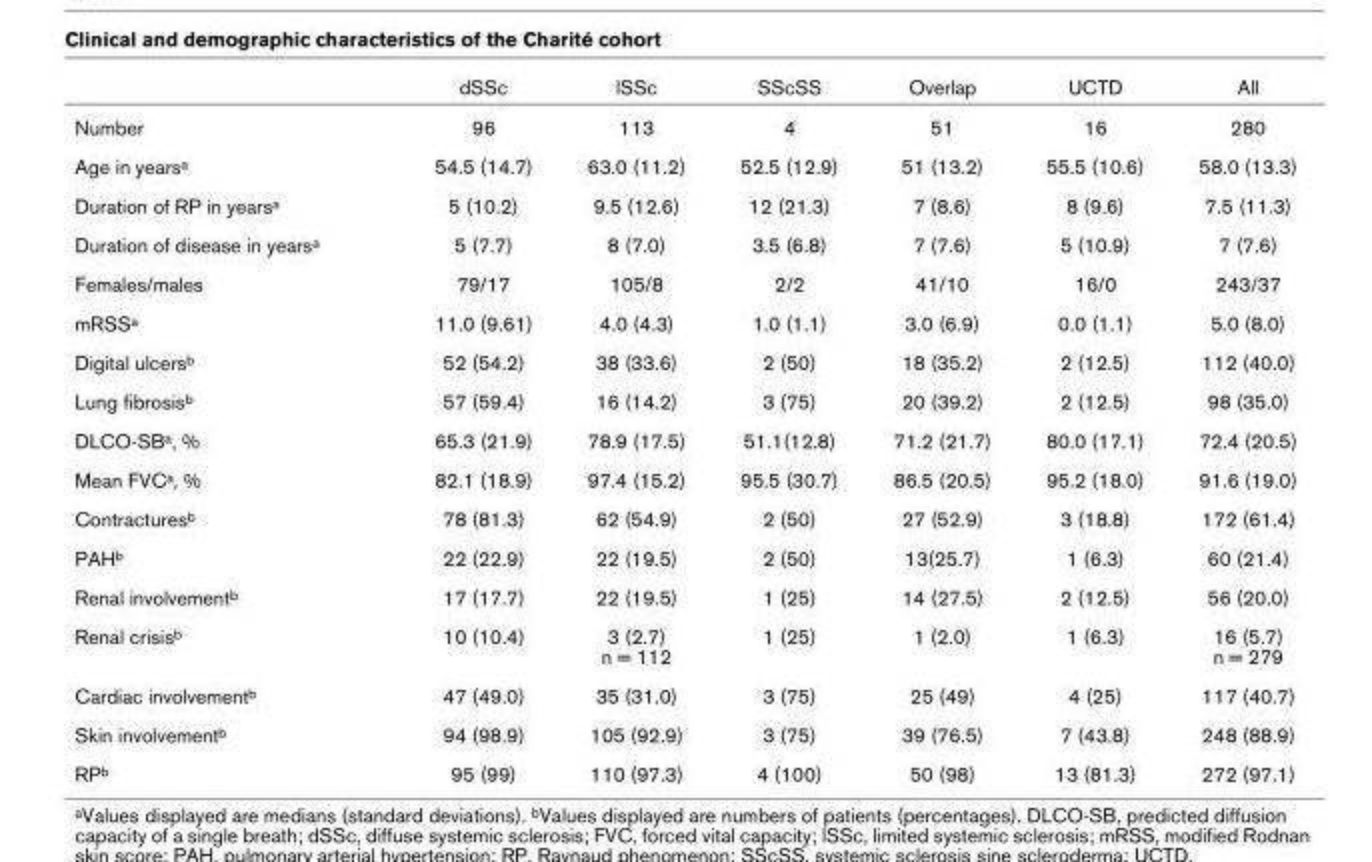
<table><thead><tr><td></td><td>dSSc</td><td>lSSc</td><td>SScSS</td><td>Overlap</td><td>UCTD</td><td>All</td></tr></thead><tbody><tr><td>Number</td><td>96</td><td>113</td><td>4</td><td>51</td><td>16</td><td>280</td></tr><tr><td>Age in years<sup>a</sup></td><td>54.5 (14.7)</td><td>63.0 (11.2)</td><td>52.5 (12.9)</td><td>51 (13.2)</td><td>55.5 (10.6)</td><td>58.0 (13.3)</td></tr><tr><td>Duration of RP in years<sup>a</sup></td><td>5 (10.2)</td><td>9.5 (12.6)</td><td>12 (21.3)</td><td>7 (8.6)</td><td>8 (9.6)</td><td>7.5 (11.3)</td></tr><tr><td>Duration of disease in years<sup>a</sup></td><td>5 (7.7)</td><td>8 (7.0)</td><td>3.5 (6.8)</td><td>7 (7.6)</td><td>5 (10.9)</td><td>7 (7.6)</td></tr><tr><td>Females/males</td><td>79/17</td><td>105/8</td><td>2/2</td><td>41/10</td><td>16/0</td><td>243/37</td></tr><tr><td>mRSS<sup>a</sup></td><td>11.0 (9.61)</td><td>4.0 (4.3)</td><td>1.0 (1.1)</td><td>3.0 (6.9)</td><td>0.0 (1.1)</td><td>5.0 (8.0)</td></tr><tr><td>Digital ulcers<sup>b</sup></td><td>52 (54.2)</td><td>38 (33.6)</td><td>2 (50)</td><td>18 (35.2)</td><td>2 (12.5)</td><td>112 (40.0)</td></tr><tr><td>Lung fibrosis<sup>b</sup></td><td>57 (59.4)</td><td>16 (14.2)</td><td>3 (75)</td><td>20 (39.2)</td><td>2 (12.5)</td><td>98 (35.0)</td></tr><tr><td>DLCO-SB<sup>a</sup>, %</td><td>65.3 (21.9)</td><td>78.9 (17.5)</td><td>51.1(12.8)</td><td>71.2 (21.7)</td><td>80.0 (17.1)</td><td>72.4 (20.5)</td></tr><tr><td>Mean FVC<sup>a</sup>, %</td><td>82.1 (18.9)</td><td>97.4 (15.2)</td><td>95.5 (30.7)</td><td>86.5 (20.5)</td><td>95.2 (18.0)</td><td>91.6 (19.0)</td></tr><tr><td>Contractures<sup>b</sup></td><td>78 (81.3)</td><td>62 (54.9)</td><td>2 (50)</td><td>27 (52.9)</td><td>3 (18.8)</td><td>172 (61.4)</td></tr><tr><td>PAH<sup>b</sup></td><td>22 (22.9)</td><td>22 (19.5)</td><td>2 (50)</td><td>13(25.7)</td><td>1 (6.3)</td><td>60 (21.4)</td></tr><tr><td>Renal involvement<sup>b</sup></td><td>17 (17.7)</td><td>22 (19.5)</td><td>1 (25)</td><td>14 (27.5)</td><td>2 (12.5)</td><td>56 (20.0)</td></tr><tr><td>Renal crisis<sup>b</sup></td><td>10 (10.4)</td><td>3 (2.7) n = 112</td><td>1 (25)</td><td>1 (2.0)</td><td>1 (6.3)</td><td>16 (5.7) n = 279</td></tr><tr><td>Cardiac involvement<sup>b</sup></td><td>47 (49.0)</td><td>35 (31.0)</td><td>3 (75)</td><td>25 (49)</td><td>4 (25)</td><td>117 (40.7)</td></tr><tr><td>Skin involvement<sup>b</sup></td><td>94 (98.9)</td><td>105 (92.9)</td><td>3 (75)</td><td>39 (76.5)</td><td>7 (43.8)</td><td>248 (88.9)</td></tr><tr><td>RP<sup>b</sup></td><td>95 (99)</td><td>110 (97.3)</td><td>4 (100)</td><td>50 (98)</td><td>13 (81.3)</td><td>272 (97.1)</td></tr></tbody></table>